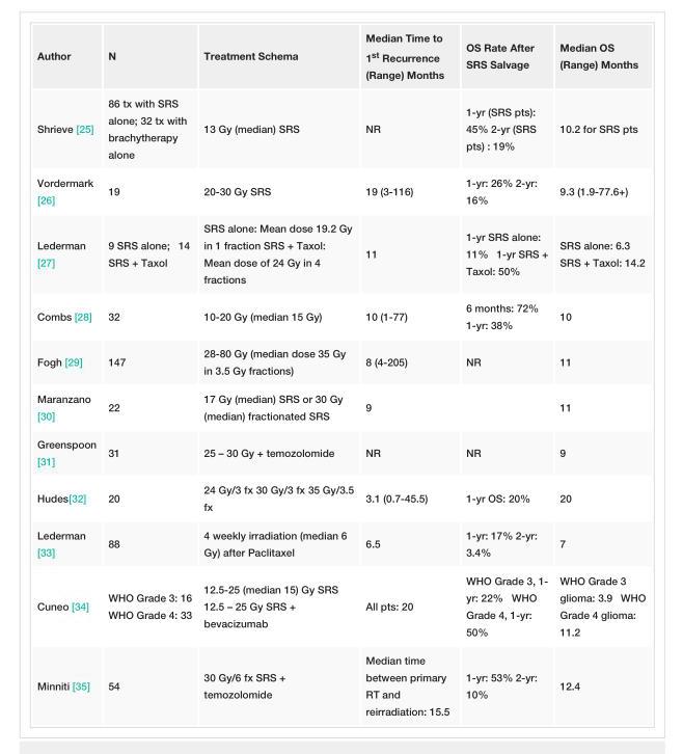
<table><tbody><tr><td>Author</td><td>N</td><td>Treatment Schema</td><td>Median Time to 1<sup>st</sup> Recurrence (Range) Months</td><td>OS Rate After SRS Salvage</td><td>Median OS (Range) Months</td></tr><tr><td>Shrieve [25]</td><td>86 tx with SRS alone; 32 tx with brachytherapy alone</td><td>13 Gy (median) SRS</td><td>NR</td><td>1-yr (SRS pts): 45% 2-yr (SRS pts) : 19%</td><td>10.2 for SRS pts</td></tr><tr><td>Vordermark [26]</td><td>19</td><td>20-30 Gy SRS</td><td>19 (3-116)</td><td>1-yr: 26% 2-yr: 16%</td><td>9.3 (1.9-77.6+)</td></tr><tr><td>Lederman [27]</td><td>9 SRS alone; 14 SRS + Taxol</td><td>SRS alone: Mean dose 19.2 Gy in 1 fraction SRS + Taxol: Mean dose of 24 Gy in 4 fractions</td><td>11</td><td>1-yr SRS alone: 11% 1-yr SRS + Taxol: 50%</td><td>SRS alone: 6.3 SRS + Taxol: 14.2</td></tr><tr><td>Combs [28]</td><td>32</td><td>10-20 Gy (median 15 Gy)</td><td>10 (1-77)</td><td>6 months: 72% 1-yr: 38%</td><td>10</td></tr><tr><td>Fogh [29]</td><td>147</td><td>28-80 Gy (median dose 35 Gy in 3.5 Gy fractions)</td><td>8 (4-205)</td><td>NR</td><td>11</td></tr><tr><td>Maranzano [30]</td><td>22</td><td>17 Gy (median) SRS or 30 Gy (median) fractionated SRS</td><td>9</td><td></td><td>11</td></tr><tr><td>Greenspoon [31]</td><td>31</td><td>25 – 30 Gy + temozolomide</td><td>NR</td><td>NR</td><td>9</td></tr><tr><td>Hudes[32]</td><td>20</td><td>24 Gy/3 fx 30 Gy/3 fx 35 Gy/3.5 fx</td><td>3.1 (0.7-45.5)</td><td>1-yr OS: 20%</td><td>20</td></tr><tr><td>Lederman [33]</td><td>88</td><td>4 weekly irradiation (median 6 Gy) after Paclitaxel</td><td>6.5</td><td>1-yr: 17% 2-yr: 3.4%</td><td>7</td></tr><tr><td>Cuneo [34]</td><td>WHO Grade 3: 16 WHO Grade 4: 33</td><td>12.5-25 (median 15) Gy SRS 12.5 – 25 Gy SRS + bevacizumab</td><td>All pts: 20</td><td>WHO Grade 3, 1- yr: 22% WHO Grade 4, 1-yr: 50%</td><td>WHO Grade 3 glioma: 3.9 WHO Grade 4 glioma: 11.2</td></tr><tr><td>Minniti [35]</td><td>54</td><td>30 Gy/6 fx SRS + temozolomide</td><td>Median time between primary RT and reirradiation: 15.5</td><td>1-yr: 53% 2-yr: 10%</td><td>12.4</td></tr></tbody></table>